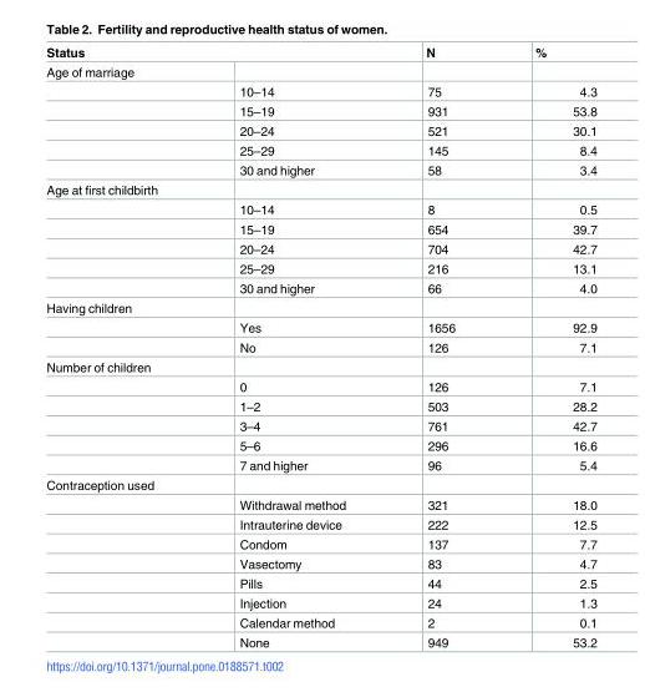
<table><thead><tr><td colspan="2">Status</td><td rowspan="2">N</td><td rowspan="2">%</td></tr><tr><td>Age of marriage</td><td></td></tr></thead><tbody><tr><td></td><td>10–14</td><td>75</td><td>4.3</td></tr><tr><td></td><td>15–19</td><td>931</td><td>53.8</td></tr><tr><td></td><td>20–24</td><td>521</td><td>30.1</td></tr><tr><td></td><td>25–29</td><td>145</td><td>8.4</td></tr><tr><td></td><td>30 and higher</td><td>58</td><td>3.4</td></tr><tr><td colspan="4">Age at first childbirth</td></tr><tr><td></td><td>10–14</td><td>8</td><td>0.5</td></tr><tr><td></td><td>15–19</td><td>654</td><td>39.7</td></tr><tr><td></td><td>20–24</td><td>704</td><td>42.7</td></tr><tr><td></td><td>25–29</td><td>216</td><td>13.1</td></tr><tr><td></td><td>30 and higher</td><td>66</td><td>4.0</td></tr><tr><td colspan="4">Having children</td></tr><tr><td></td><td>Yes</td><td>1656</td><td>92.9</td></tr><tr><td></td><td>No</td><td>126</td><td>7.1</td></tr><tr><td colspan="4">Number of children</td></tr><tr><td></td><td>0</td><td>126</td><td>7.1</td></tr><tr><td></td><td>1–2</td><td>503</td><td>28.2</td></tr><tr><td></td><td>3–4</td><td>761</td><td>42.7</td></tr><tr><td></td><td>5–6</td><td>296</td><td>16.6</td></tr><tr><td></td><td>7 and higher</td><td>96</td><td>5.4</td></tr><tr><td colspan="4">Contraception used</td></tr><tr><td></td><td>Withdrawal method</td><td>321</td><td>18.0</td></tr><tr><td></td><td>Intrauterine device</td><td>222</td><td>12.5</td></tr><tr><td></td><td>Condom</td><td>137</td><td>7.7</td></tr><tr><td></td><td>Vasectomy</td><td>83</td><td>4.7</td></tr><tr><td></td><td>Pills</td><td>44</td><td>2.5</td></tr><tr><td></td><td>Injection</td><td>24</td><td>1.3</td></tr><tr><td></td><td>Calendar method</td><td>2</td><td>0.1</td></tr><tr><td></td><td>None</td><td>949</td><td>53.2</td></tr></tbody></table>